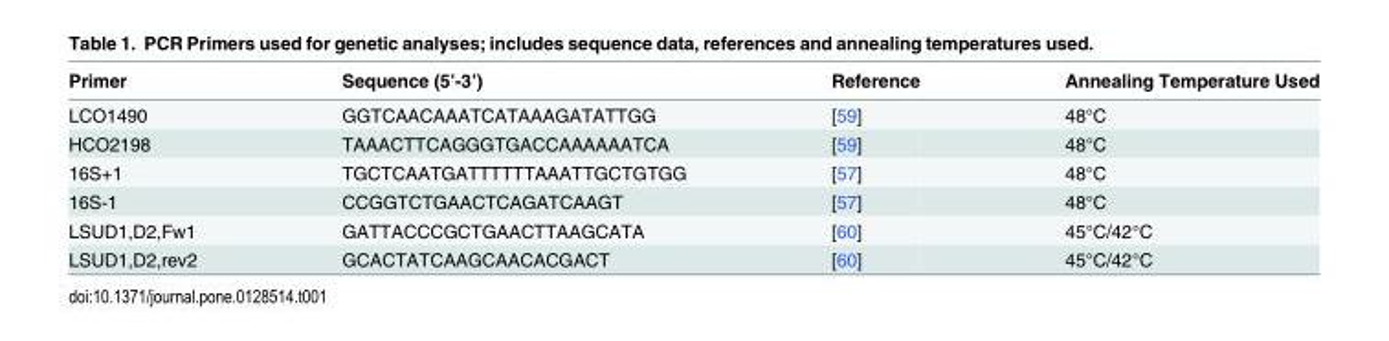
<table><thead><tr><td>Primer</td><td>Sequence (5’-3’)</td><td>Reference</td><td>Annealing Temperature Used</td></tr></thead><tbody><tr><td>LCO1490</td><td>GGTCAACAAATCATAAAGATATTGG</td><td>[59]</td><td>48°C</td></tr><tr><td>HCO2198</td><td>TAAACTTCAGGGTGACCAAAAAATCA</td><td>[59]</td><td>48°C</td></tr><tr><td>16S+1</td><td>TGCTCAATGATTTTTTAAATTGCTGTGG</td><td>[57]</td><td>48°C</td></tr><tr><td>16S-1</td><td>CCGGTCTGAACTCAGATCAAGT</td><td>[57]</td><td>48°C</td></tr><tr><td>LSUD1,D2,Fw1</td><td>GATTACCCGCTGAACTTAAGCATA</td><td>[60]</td><td>45°C/42°C</td></tr><tr><td>LSUD1,D2,rev2</td><td>GCACTATCAAGCAACACGACT</td><td>[60]</td><td>45°C/42°C</td></tr></tbody></table>